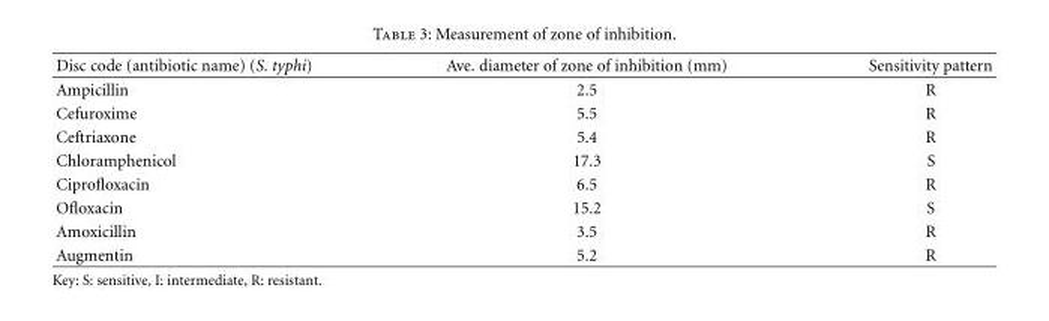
<table><thead><tr><td>Disc code (antibiotic name) (S. typhi)</td><td>Ave. diameter of zone of inhibition (mm)</td><td>Sensitivity pattern</td></tr></thead><tbody><tr><td>Ampicillin</td><td>2.5</td><td>R</td></tr><tr><td>Cefuroxime</td><td>5.5</td><td>R</td></tr><tr><td>Ceftriaxone</td><td>5.4</td><td>R</td></tr><tr><td>Chloramphenicol</td><td>17.3</td><td>S</td></tr><tr><td>Ciprofloxacin</td><td>6.5</td><td>R</td></tr><tr><td>Ofloxacin</td><td>15.2</td><td>S</td></tr><tr><td>Amoxicillin</td><td>3.5</td><td>R</td></tr><tr><td>Augmentin</td><td>5.2</td><td>R</td></tr></tbody></table>